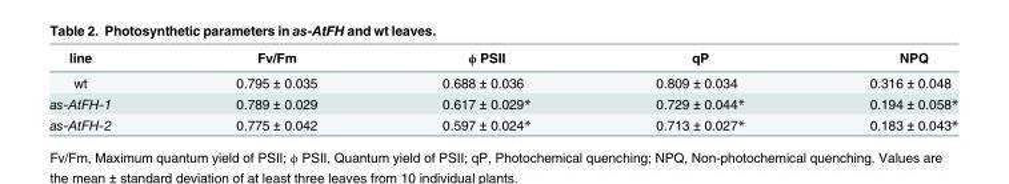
<table><thead><tr><td>line</td><td>Fv/Fm</td><td>ϕ PSII</td><td>qP</td><td>NPQ</td></tr></thead><tbody><tr><td>wt</td><td>0.795 ± 0.035</td><td>0.688 ± 0.036</td><td>0.809 ± 0.034</td><td>0.316 ± 0.048</td></tr><tr><td>as-AtFH-1</td><td>0.789 ± 0.029</td><td>0.617 ± 0.029*</td><td>0.729 ± 0.044*</td><td>0.194 ± 0.058*</td></tr><tr><td>as-AtFH-2</td><td>0.775 ± 0.042</td><td>0.597 ± 0.024*</td><td>0.713 ± 0.027*</td><td>0.183 ± 0.043*</td></tr></tbody></table>